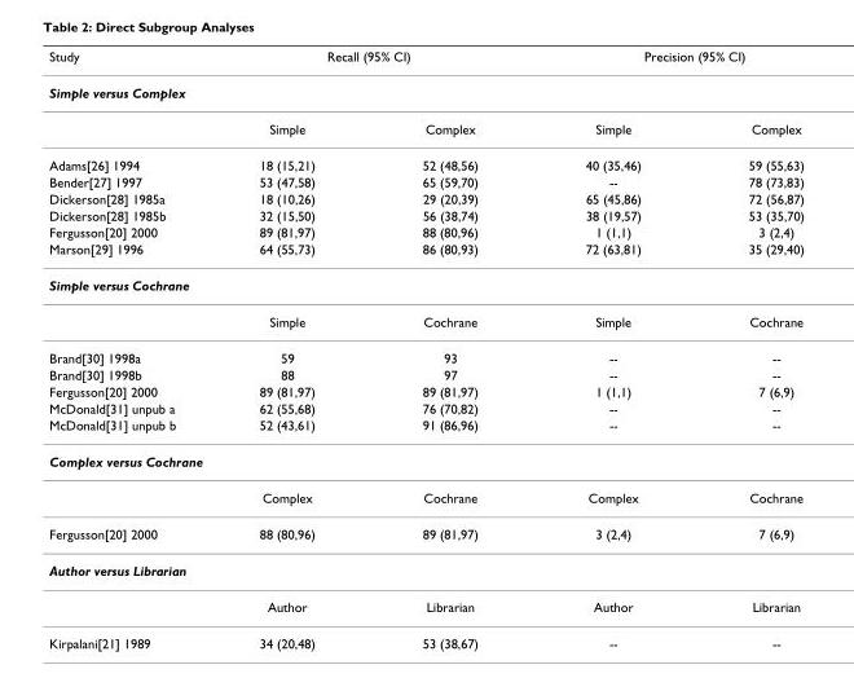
<table><thead><tr><td>Study</td><td colspan="2">Recall (95% CI)</td><td colspan="2">Precision (95% CI)</td></tr><tr><td colspan="5">Simple versus Complex</td></tr><tr><td></td><td>Simple</td><td>Complex</td><td>Simple</td><td>Complex</td></tr></thead><tbody><tr><td>Adams[26] 1994</td><td>18 (15,21)</td><td>52 (48,56)</td><td>40 (35,46)</td><td>59 (55,63)</td></tr><tr><td>Bender[27] 1997</td><td>53 (47,58)</td><td>65 (59,70)</td><td>--</td><td>78 (73,83)</td></tr><tr><td>Dickerson[28] 1985a</td><td>18 (10,26)</td><td>29 (20,39)</td><td>65 (45,86)</td><td>72 (56,87)</td></tr><tr><td>Dickerson[28] 1985b</td><td>32 (15,50)</td><td>56 (38,74)</td><td>38 (19,57)</td><td>53 (35,70)</td></tr><tr><td>Fergusson[20] 2000</td><td>89 (81,97)</td><td>88 (80,96)</td><td>1 (1,1)</td><td>3 (2,4)</td></tr><tr><td>Marson[29] 1996</td><td>64 (55,73)</td><td>86 (80,93)</td><td>72 (63,81)</td><td>35 (29,40)</td></tr><tr><td colspan="5">Simple versus Cochrane</td></tr><tr><td></td><td>Simple</td><td>Cochrane</td><td>Simple</td><td>Cochrane</td></tr><tr><td>Brand[30] 1998a</td><td>59</td><td>93</td><td>--</td><td>--</td></tr><tr><td>Brand[30] 1998b</td><td>88</td><td>97</td><td>--</td><td>--</td></tr><tr><td>Fergusson[20] 2000</td><td>89 (81,97)</td><td>89 (81,97)</td><td>1 (1,1)</td><td>7 (6,9)</td></tr><tr><td>McDonald[31] unpub a</td><td>62 (55,68)</td><td>76 (70,82)</td><td>--</td><td>--</td></tr><tr><td>McDonald[31] unpub b</td><td>52 (43,61)</td><td>91 (86,96)</td><td>--</td><td>--</td></tr><tr><td colspan="5">Complex versus Cochrane</td></tr><tr><td></td><td>Complex</td><td>Cochrane</td><td>Complex</td><td>Cochrane</td></tr><tr><td>Fergusson[20] 2000</td><td>88 (80,96)</td><td>89 (81,97)</td><td>3 (2,4)</td><td>7 (6,9)</td></tr><tr><td colspan="5">Author versus Librarian</td></tr><tr><td></td><td>Author</td><td>Librarian</td><td>Author</td><td>Librarian</td></tr><tr><td>Kirpalani[21] 1989</td><td>34 (20,48)</td><td>53 (38,67)</td><td>--</td><td>--</td></tr></tbody></table>